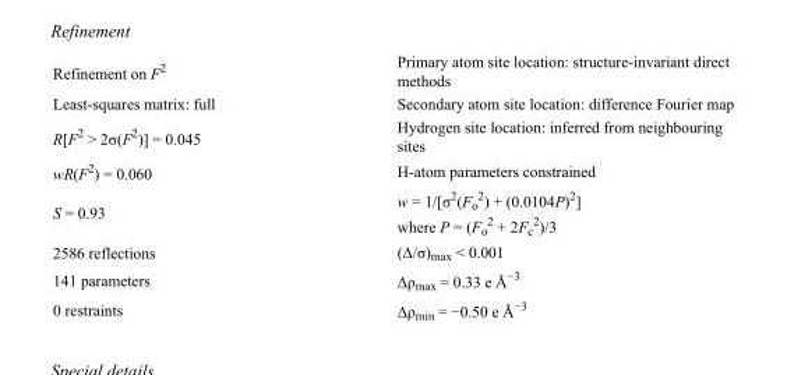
<table><tbody><tr><td>Refinement on F<sup>2</sup></td><td>Primary atom site location: structure-invariant direct methods</td></tr><tr><td>Least-squares matrix: full</td><td>Secondary atom site location: difference Fourier map</td></tr><tr><td>R[F<sup>2</sup> &gt; 2σ(F<sup>2</sup>)] = 0.045</td><td>Hydrogen site location: inferred from neighbouring sites</td></tr><tr><td>wR(F<sup>2</sup>) = 0.060</td><td>H-atom parameters constrained</td></tr><tr><td>S = 0.93</td><td>w = 1/[σ<sup>2</sup>(F<sub>o</sub> <sup>2</sup>) + (0.0104P)<sup>2</sup>] where P = (F<sub>o</sub> <sup>2</sup> + 2F<sub>c</sub> <sup>2</sup>)/3</td></tr><tr><td>2586 reflections</td><td>(Δ/σ)<sub>max</sub> &lt; 0.001</td></tr><tr><td>141 parameters</td><td>Δρ<sub>max</sub> = 0.33 e Å<sup>−3</sup></td></tr><tr><td>0 restraints</td><td>Δρ<sub>min</sub> = −0.50 e Å<sup>−3</sup></td></tr></tbody></table>